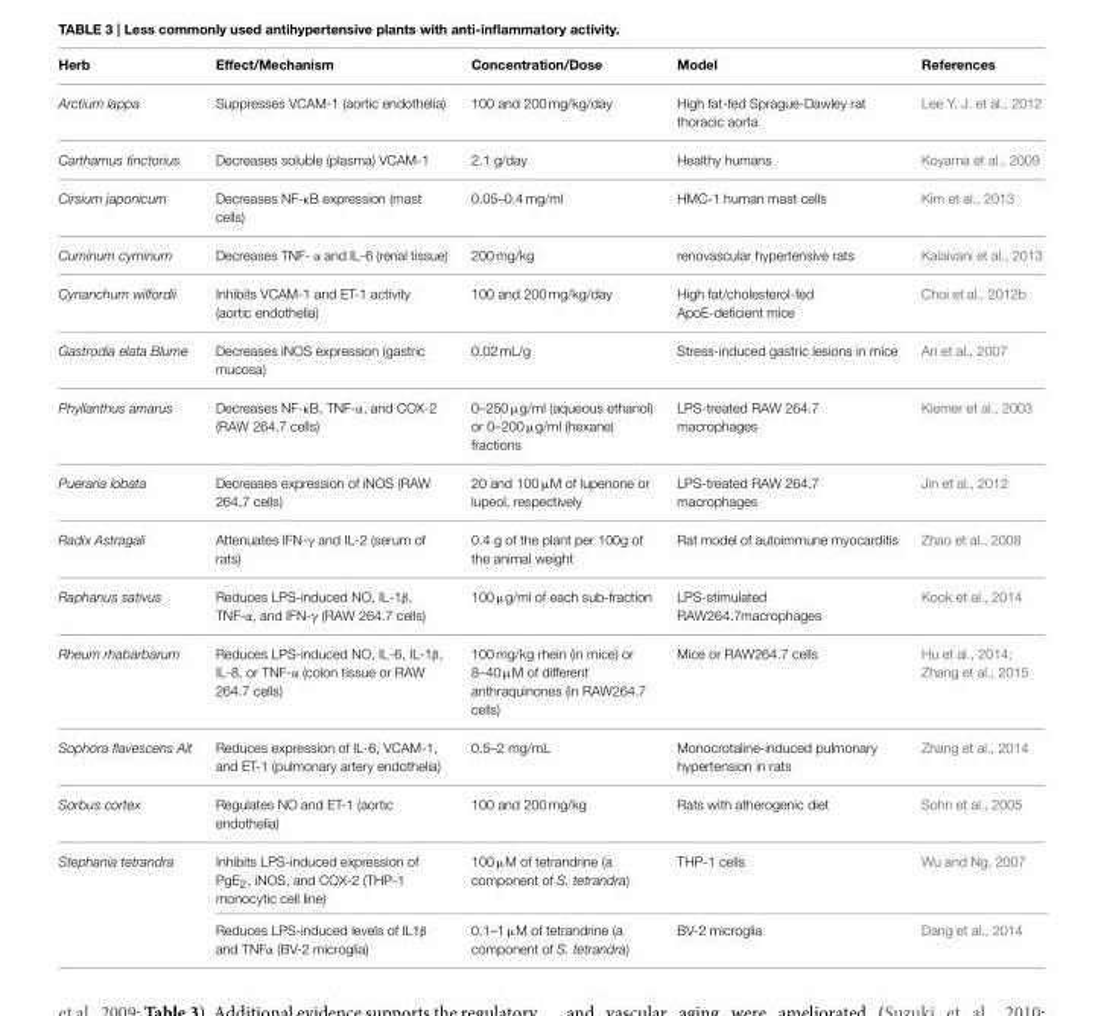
<table><thead><tr><td>Herb</td><td>Effect/Mechanism</td><td>Concentration/Dose</td><td>Model</td><td>References</td></tr></thead><tbody><tr><td>Arctium lappa</td><td>Suppresses VCAM-1 (aortic endothelia)</td><td>100 and 200 mg/kg/day</td><td>High fat-fed Sprague-Dawley rat thoracic aorta</td><td>Lee Y. J. et al., 2012</td></tr><tr><td>Carthamus tinctorius</td><td>Decreases soluble (plasma) VCAM-1</td><td>2.1 g/day</td><td>Healthy humans</td><td>Koyama et al., 2009</td></tr><tr><td>Cirsium japonicum</td><td>Decreases NF-κB expression (mast cells)</td><td>0.05–0.4 mg/ml</td><td>HMC-1 human mast cells</td><td>Kim et al., 2013</td></tr><tr><td>Cuminum cyminum</td><td>Decreases TNF- α and IL-6 (renal tissue)</td><td>200 mg/kg</td><td>renovascular hypertensive rats</td><td>Kalaivani et al., 2013</td></tr><tr><td>Cynanchum wilfordii</td><td>Inhibits VCAM-1 and ET-1 activity (aortic endothelia)</td><td>100 and 200 mg/kg/day</td><td>High fat/cholesterol-fed ApoE-deficient mice</td><td>Choi et al., 2012b</td></tr><tr><td>Gastrodia elata Blume</td><td>Decreases iNOS expression (gastric mucosa)</td><td>0.02 mL/g</td><td>Stress-induced gastric lesions in mice</td><td>An et al., 2007</td></tr><tr><td>Phyllanthus amarus</td><td>Decreases NF-κB, TNF-α, and COX-2 (RAW 264.7 cells)</td><td>0–250 µg/ml (aqueous ethanol) or 0–200 µg/ml (hexane) fractions</td><td>LPS-treated RAW 264.7 macrophages</td><td>Kiemer et al., 2003</td></tr><tr><td>Pueraria lobata</td><td>Decreases expression of iNOS (RAW 264.7 cells)</td><td>20 and 100 µM of lupenone or lupeol, respectively</td><td>LPS-treated RAW 264.7 macrophages</td><td>Jin et al., 2012</td></tr><tr><td>Radix Astragali</td><td>Attenuates IFN-γ and IL-2 (serum of rats)</td><td>0.4 g of the plant per 100g of the animal weight</td><td>Rat model of autoimmune myocarditis</td><td>Zhao et al., 2008</td></tr><tr><td>Raphanus sativus</td><td>Reduces LPS-induced NO, IL-1β, TNF-α, and IFN-γ (RAW 264.7 cells)</td><td>100 µg/ml of each sub-fraction</td><td>LPS-stimulated RAW264.7macrophages</td><td>Kook et al., 2014</td></tr><tr><td>Rheum rhabarbarum</td><td>Reduces LPS-induced NO, IL-6, IL-1β, IL-8, or TNF-α (colon tissue or RAW 264.7 cells)</td><td>100 mg/kg rhein (in mice) or 8–40 µM of different anthraquinones (in RAW264.7 cells)</td><td>Mice or RAW264.7 cells</td><td>Hu et al., 2014; Zhang et al., 2015</td></tr><tr><td>Sophora flavescens Ait</td><td>Reduces expression of IL-6, VCAM-1, and ET-1 (pulmonary artery endothelia)</td><td>0.5–2 mg/mL</td><td>Monocrotaline-induced pulmonary hypertension in rats</td><td>Zhang et al., 2014</td></tr><tr><td>Sorbus cortex</td><td>Regulates NO and ET-1 (aortic endothelia)</td><td>100 and 200 mg/kg</td><td>Rats with atherogenic diet</td><td>Sohn et al., 2005</td></tr><tr><td rowspan="2">Stephania tetrandra</td><td>Inhibits LPS-induced expression of PgE<sub>2</sub>, iNOS, and COX-2 (THP-1 monocytic cell line)</td><td>100 µM of tetrandrine (a component of S. tetrandra)</td><td>THP-1 cells</td><td>Wu and Ng, 2007</td></tr><tr><td>Reduces LPS-induced levels of IL1β and TNFα (BV-2 microglia)</td><td>0.1–1 µM of tetrandrine (a component of S. tetrandra)</td><td>BV-2 microglia</td><td>Dang et al., 2014</td></tr></tbody></table>